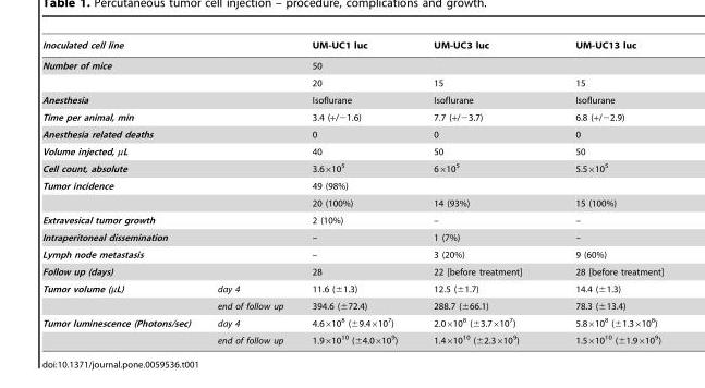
<table><thead><tr><td>Inoculated cell line</td><td></td><td>UM-UC1 luc</td><td>UM-UC3 luc</td><td>UM-UC13 luc</td></tr></thead><tbody><tr><td rowspan="2">Number of mice</td><td></td><td colspan="3">50</td></tr><tr><td></td><td>20</td><td>15</td><td>15</td></tr><tr><td>Anesthesia</td><td></td><td>Isoflurane</td><td>Isoflurane</td><td>Isoflurane</td></tr><tr><td>Time per animal, min</td><td></td><td>3.4 (+/−1.6)</td><td>7.7 (+/−3.7)</td><td>6.8 (+/−2.9)</td></tr><tr><td>Anesthesia related deaths</td><td></td><td>0</td><td>0</td><td>0</td></tr><tr><td>Volume injected, µL</td><td></td><td>40</td><td>50</td><td>50</td></tr><tr><td>Cell count, absolute</td><td></td><td>3.6×10<sup>5</sup></td><td>6×10<sup>5</sup></td><td>5.5×10<sup>5</sup></td></tr><tr><td rowspan="2">Tumor incidence</td><td></td><td colspan="3">49 (98%)</td></tr><tr><td></td><td>20 (100%)</td><td>14 (93%)</td><td>15 (100%)</td></tr><tr><td>Extravesical tumor growth</td><td></td><td>2 (10%)</td><td>–</td><td>–</td></tr><tr><td>Intraperitoneal dissemination</td><td></td><td>–</td><td>1 (7%)</td><td>–</td></tr><tr><td>Lymph node metastasis</td><td></td><td>–</td><td>3 (20%)</td><td>9 (60%)</td></tr><tr><td>Follow up (days)</td><td></td><td>28</td><td>22 [before treatment]</td><td>28 [before treatment]</td></tr><tr><td rowspan="2">Tumor volume (µL)</td><td>day 4</td><td>11.6 (±1.3)</td><td>12.5 (±1.7)</td><td>14.4 (±1.3)</td></tr><tr><td>end of follow up</td><td>394.6 (±72.4)</td><td>288.7 (±66.1)</td><td>78.3 (±13.4)</td></tr><tr><td rowspan="2">Tumor luminescence (Photons/sec)</td><td>day 4</td><td>4.6×10<sup>8</sup> (±9.4×10<sup>7</sup>)</td><td>2.0×10<sup>8</sup> (±3.7×10<sup>7</sup>)</td><td>5.8×10<sup>8</sup> (±1.3×10<sup>8</sup>)</td></tr><tr><td>end of follow up</td><td>1.9×10<sup>10</sup> (±4.0×10<sup>9</sup>)</td><td>1.4×10<sup>10</sup> (±2.3×10<sup>9</sup>)</td><td>1.5×10<sup>10</sup> (±1.9×10<sup>9</sup>)</td></tr></tbody></table>